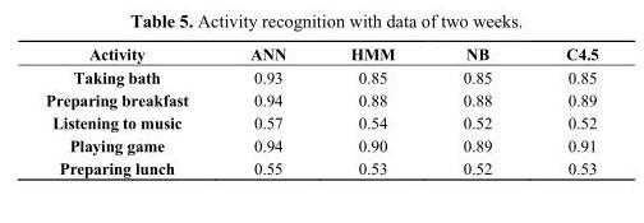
<table><thead><tr><td>Activity</td><td>ANN</td><td>HMM</td><td>NB</td><td>C4.5</td></tr></thead><tbody><tr><td>Taking bath</td><td>0.93</td><td>0.85</td><td>0.85</td><td>0.85</td></tr><tr><td>Preparing breakfast</td><td>0.94</td><td>0.88</td><td>0.88</td><td>0.89</td></tr><tr><td>Listening to music</td><td>0.57</td><td>0.54</td><td>0.52</td><td>0.52</td></tr><tr><td>Playing game</td><td>0.94</td><td>0.90</td><td>0.89</td><td>0.91</td></tr><tr><td>Preparing lunch</td><td>0.55</td><td>0.53</td><td>0.52</td><td>0.53</td></tr></tbody></table>